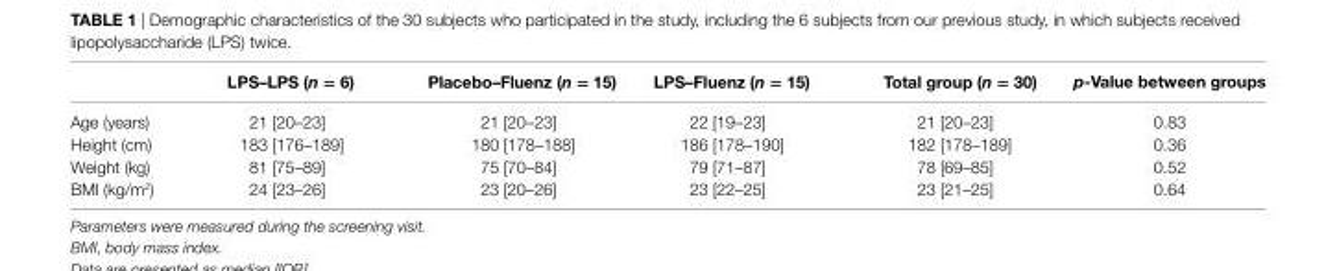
<table><thead><tr><td></td><td>lPs–lPs (n = 6)</td><td>Placebo–Fluenz (n = 15)</td><td>lPs–Fluenz (n = 15)</td><td>Total group (n = 30)</td><td>p-Value between groups</td></tr></thead><tbody><tr><td>Age (years)</td><td>21 [20–23]</td><td>21 [20–23]</td><td>22 [19–23]</td><td>21 [20–23]</td><td>0.83</td></tr><tr><td>Height (cm)</td><td>183 [176–189]</td><td>180 [178–188]</td><td>186 [178–190]</td><td>182 [178–189]</td><td>0.36</td></tr><tr><td>Weight (kg)</td><td>81 [75–89]</td><td>75 [70–84]</td><td>79 [71–87]</td><td>78 [69–85]</td><td>0.52</td></tr><tr><td>BMI (kg/m<sup>2</sup>)</td><td>24 [23–26]</td><td>23 [20–26]</td><td>23 [22–25]</td><td>23 [21–25]</td><td>0.64</td></tr></tbody></table>